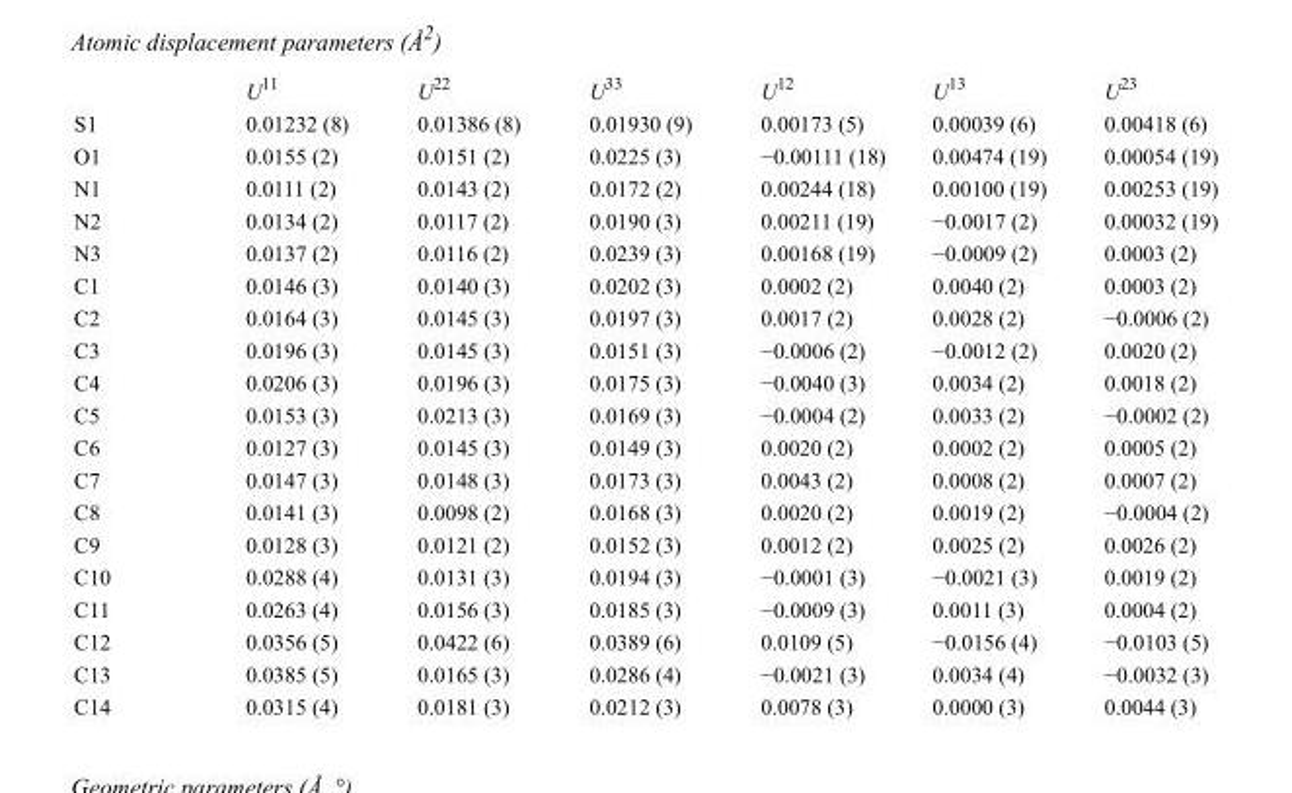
<table><thead><tr><td></td><td>U<sup>11</sup></td><td>U<sup>22</sup></td><td>U<sup>33</sup></td><td>U<sup>12</sup></td><td>U<sup>13</sup></td><td>U<sup>23</sup></td></tr></thead><tbody><tr><td>S1</td><td>0.01232 (8)</td><td>0.01386 (8)</td><td>0.01930 (9)</td><td>0.00173 (5)</td><td>0.00039 (6)</td><td>0.00418 (6)</td></tr><tr><td>O1</td><td>0.0155 (2)</td><td>0.0151 (2)</td><td>0.0225 (3)</td><td>−0.00111 (18)</td><td>0.00474 (19)</td><td>0.00054 (19)</td></tr><tr><td>N1</td><td>0.0111 (2)</td><td>0.0143 (2)</td><td>0.0172 (2)</td><td>0.00244 (18)</td><td>0.00100 (19)</td><td>0.00253 (19)</td></tr><tr><td>N2</td><td>0.0134 (2)</td><td>0.0117 (2)</td><td>0.0190 (3)</td><td>0.00211 (19)</td><td>−0.0017 (2)</td><td>0.00032 (19)</td></tr><tr><td>N3</td><td>0.0137 (2)</td><td>0.0116 (2)</td><td>0.0239 (3)</td><td>0.00168 (19)</td><td>−0.0009 (2)</td><td>0.0003 (2)</td></tr><tr><td>C1</td><td>0.0146 (3)</td><td>0.0140 (3)</td><td>0.0202 (3)</td><td>0.0002 (2)</td><td>0.0040 (2)</td><td>0.0003 (2)</td></tr><tr><td>C2</td><td>0.0164 (3)</td><td>0.0145 (3)</td><td>0.0197 (3)</td><td>0.0017 (2)</td><td>0.0028 (2)</td><td>−0.0006 (2)</td></tr><tr><td>C3</td><td>0.0196 (3)</td><td>0.0145 (3)</td><td>0.0151 (3)</td><td>−0.0006 (2)</td><td>−0.0012 (2)</td><td>0.0020 (2)</td></tr><tr><td>C4</td><td>0.0206 (3)</td><td>0.0196 (3)</td><td>0.0175 (3)</td><td>−0.0040 (3)</td><td>0.0034 (2)</td><td>0.0018 (2)</td></tr><tr><td>C5</td><td>0.0153 (3)</td><td>0.0213 (3)</td><td>0.0169 (3)</td><td>−0.0004 (2)</td><td>0.0033 (2)</td><td>−0.0002 (2)</td></tr><tr><td>C6</td><td>0.0127 (3)</td><td>0.0145 (3)</td><td>0.0149 (3)</td><td>0.0020 (2)</td><td>0.0002 (2)</td><td>0.0005 (2)</td></tr><tr><td>C7</td><td>0.0147 (3)</td><td>0.0148 (3)</td><td>0.0173 (3)</td><td>0.0043 (2)</td><td>0.0008 (2)</td><td>0.0007 (2)</td></tr><tr><td>C8</td><td>0.0141 (3)</td><td>0.0098 (2)</td><td>0.0168 (3)</td><td>0.0020 (2)</td><td>0.0019 (2)</td><td>−0.0004 (2)</td></tr><tr><td>C9</td><td>0.0128 (3)</td><td>0.0121 (2)</td><td>0.0152 (3)</td><td>0.0012 (2)</td><td>0.0025 (2)</td><td>0.0026 (2)</td></tr><tr><td>C10</td><td>0.0288 (4)</td><td>0.0131 (3)</td><td>0.0194 (3)</td><td>−0.0001 (3)</td><td>−0.0021 (3)</td><td>0.0019 (2)</td></tr><tr><td>C11</td><td>0.0263 (4)</td><td>0.0156 (3)</td><td>0.0185 (3)</td><td>−0.0009 (3)</td><td>0.0011 (3)</td><td>0.0004 (2)</td></tr><tr><td>C12</td><td>0.0356 (5)</td><td>0.0422 (6)</td><td>0.0389 (6)</td><td>0.0109 (5)</td><td>−0.0156 (4)</td><td>−0.0103 (5)</td></tr><tr><td>C13</td><td>0.0385 (5)</td><td>0.0165 (3)</td><td>0.0286 (4)</td><td>−0.0021 (3)</td><td>0.0034 (4)</td><td>−0.0032 (3)</td></tr><tr><td>C14</td><td>0.0315 (4)</td><td>0.0181 (3)</td><td>0.0212 (3)</td><td>0.0078 (3)</td><td>0.0000 (3)</td><td>0.0044 (3)</td></tr></tbody></table>